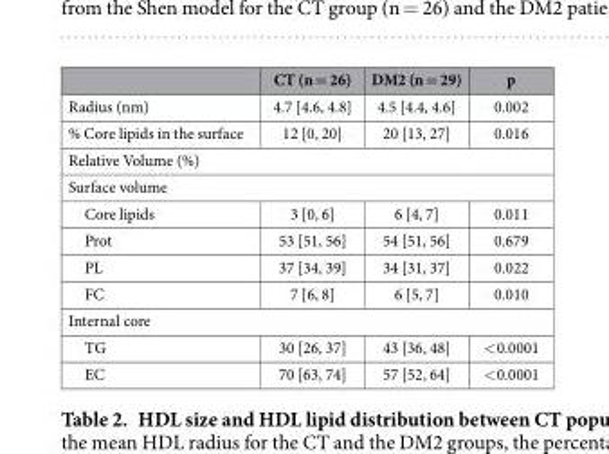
<table><thead><tr><td></td><td>CT (n = 26)</td><td>DM2 (n = 29)</td><td>p</td></tr></thead><tbody><tr><td>Radius (nm)</td><td>4.7 [4.6, 4.8]</td><td>4.5 [4.4, 4.6]</td><td>0.002</td></tr><tr><td>% Core lipids in the surface</td><td>12 [0, 20]</td><td>20 [13, 27]</td><td>0.016</td></tr><tr><td colspan="4">Relative Volume (%)</td></tr><tr><td colspan="4">Surface volume</td></tr><tr><td>Core lipids</td><td>3 [0, 6]</td><td>6 [4, 7]</td><td>0.011</td></tr><tr><td>Prot</td><td>53 [51, 56]</td><td>54 [51, 56]</td><td>0.679</td></tr><tr><td>PL</td><td>37 [34, 39]</td><td>34 [31, 37]</td><td>0.022</td></tr><tr><td>FC</td><td>7 [6, 8]</td><td>6 [5, 7]</td><td>0.010</td></tr><tr><td colspan="4">Internal core</td></tr><tr><td>TG</td><td>30 [26, 37]</td><td>43 [36, 48]</td><td>&lt; 0.0001</td></tr><tr><td>EC</td><td>70 [63, 74]</td><td>57 [52, 64]</td><td>&lt; 0.0001</td></tr></tbody></table>